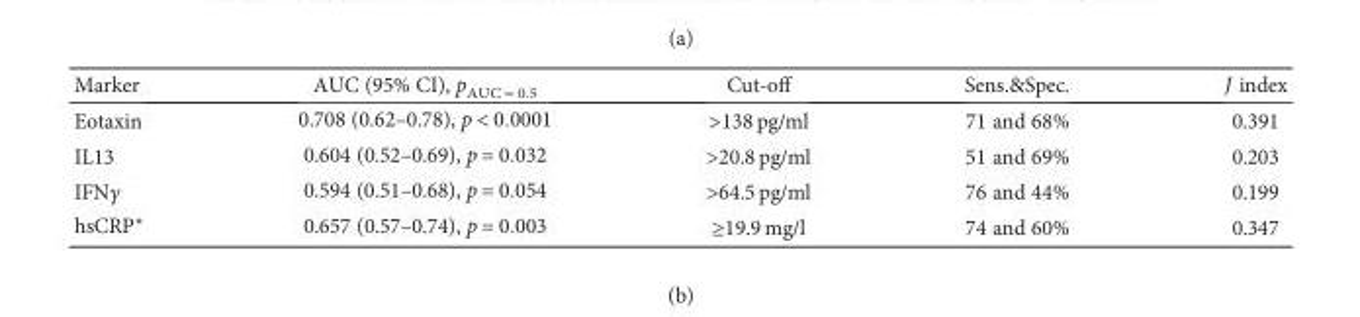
<table><thead><tr><td>Marker</td><td>AUC (95% CI), p<sub>AUC = 0.5</sub></td><td>Cut-off</td><td>Sens.&amp;Spec.</td><td>J index</td></tr></thead><tbody><tr><td>Eotaxin</td><td>0.708 (0.62–0.78), p &lt; 0 0001</td><td>&gt;138 pg/ml</td><td>71 and 68%</td><td>0.391</td></tr><tr><td>IL13</td><td>0.604 (0.52–0.69), p = 0 032</td><td>&gt;20.8 pg/ml</td><td>51 and 69%</td><td>0.203</td></tr><tr><td>IFNγ</td><td>0.594 (0.51–0.68), p = 0 054</td><td>&gt;64.5 pg/ml</td><td>76 and 44%</td><td>0.199</td></tr><tr><td>hsCRP∗</td><td>0.657 (0.57–0.74), p = 0 003</td><td>≥19.9 mg/l</td><td>74 and 60%</td><td>0.347</td></tr></tbody></table>